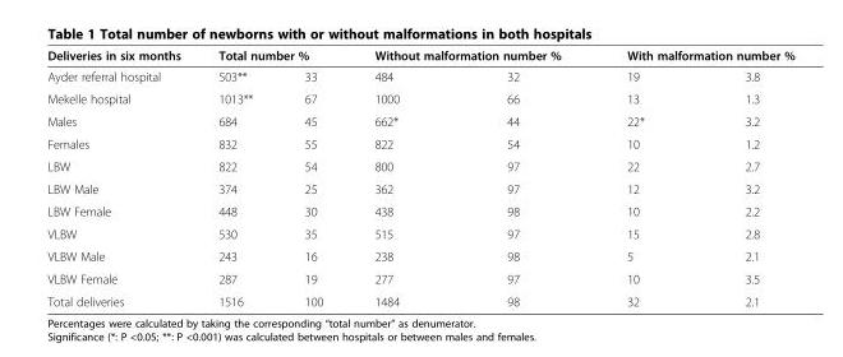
<table><thead><tr><td rowspan="2">Deliveries in six months Ayder referral hospital</td><td colspan="2">Total number %</td><td colspan="2">Without malformation number %</td><td colspan="2">With malformation number %</td></tr><tr><td>503**</td><td>33</td><td>484</td><td>32</td><td>19</td><td>3.8</td></tr></thead><tbody><tr><td>Mekelle hospital</td><td>1013**</td><td>67</td><td>1000</td><td>66</td><td>13</td><td>1.3</td></tr><tr><td>Males</td><td>684</td><td>45</td><td>662*</td><td>44</td><td>22*</td><td>3.2</td></tr><tr><td>Females</td><td>832</td><td>55</td><td>822</td><td>54</td><td>10</td><td>1.2</td></tr><tr><td>LBW</td><td>822</td><td>54</td><td>800</td><td>97</td><td>22</td><td>2.7</td></tr><tr><td>LBW Male</td><td>374</td><td>25</td><td>362</td><td>97</td><td>12</td><td>3.2</td></tr><tr><td>LBW Female</td><td>448</td><td>30</td><td>438</td><td>98</td><td>10</td><td>2.2</td></tr><tr><td>VLBW</td><td>530</td><td>35</td><td>515</td><td>97</td><td>15</td><td>2.8</td></tr><tr><td>VLBW Male</td><td>243</td><td>16</td><td>238</td><td>98</td><td>5</td><td>2.1</td></tr><tr><td>VLBW Female</td><td>287</td><td>19</td><td>277</td><td>97</td><td>10</td><td>3.5</td></tr><tr><td>Total deliveries</td><td>1516</td><td>100</td><td>1484</td><td>98</td><td>32</td><td>2.1</td></tr></tbody></table>